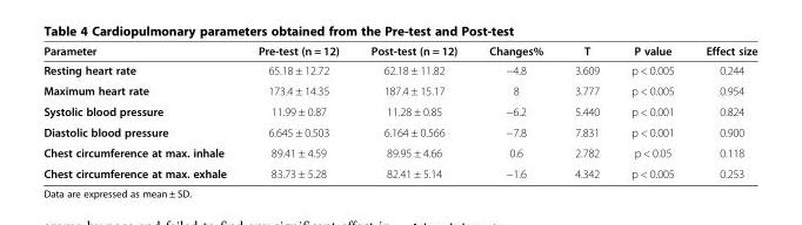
<table><thead><tr><td>Parameter</td><td>Pre-test (n = 12)</td><td>Post-test (n = 12)</td><td>Changes%</td><td>T</td><td>P value</td><td>Effect size</td></tr></thead><tbody><tr><td>Resting heart rate</td><td>65.18 ± 12.72</td><td>62.18 ± 11.82</td><td>−4.8</td><td>3.609</td><td>p &lt; 0.005</td><td>0.244</td></tr><tr><td>Maximum heart rate</td><td>173.4 ± 14.35</td><td>187.4 ± 15.17</td><td>8</td><td>3.777</td><td>p &lt; 0.005</td><td>0.954</td></tr><tr><td>Systolic blood pressure</td><td>11.99 ± 0.87</td><td>11.28 ± 0.85</td><td>−6.2</td><td>5.440</td><td>p &lt; 0.001</td><td>0.824</td></tr><tr><td>Diastolic blood pressure</td><td>6.645 ± 0.503</td><td>6.164 ± 0.566</td><td>−7.8</td><td>7.831</td><td>p &lt; 0.001</td><td>0.900</td></tr><tr><td>Chest circumference at max. inhale</td><td>89.41 ± 4.59</td><td>89.95 ± 4.66</td><td>0.6</td><td>2.782</td><td>p &lt; 0.05</td><td>0.118</td></tr><tr><td>Chest circumference at max. exhale</td><td>83.73 ± 5.28</td><td>82.41 ± 5.14</td><td>−1.6</td><td>4.342</td><td>p &lt; 0.005</td><td>0.253</td></tr></tbody></table>